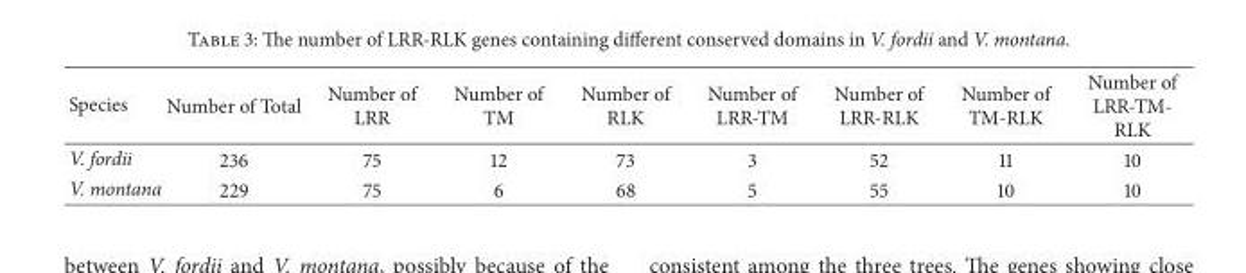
<table><thead><tr><td>Species</td><td>Number of Total</td><td>Number of LRR</td><td>Number of TM</td><td>Number of RLK</td><td>Number of LRR-TM</td><td>Number of LRR-RLK</td><td>Number of TM-RLK</td><td>Number of LRR-TM- RLK</td></tr></thead><tbody><tr><td>V. fordii</td><td>236</td><td>75</td><td>12</td><td>73</td><td>3</td><td>52</td><td>11</td><td>10</td></tr><tr><td>V. montana</td><td>229</td><td>75</td><td>6</td><td>68</td><td>5</td><td>55</td><td>10</td><td>10</td></tr></tbody></table>